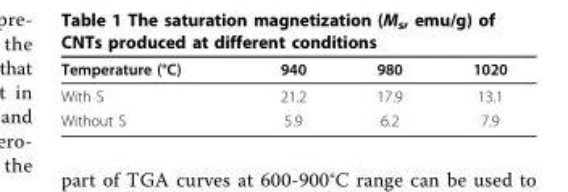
<table><thead><tr><td>Temperature (°C)</td><td>940</td><td>980</td><td>1020</td></tr></thead><tbody><tr><td>With S</td><td>21.2</td><td>17.9</td><td>13.1</td></tr><tr><td>Without S</td><td>5.9</td><td>6.2</td><td>7.9</td></tr></tbody></table>